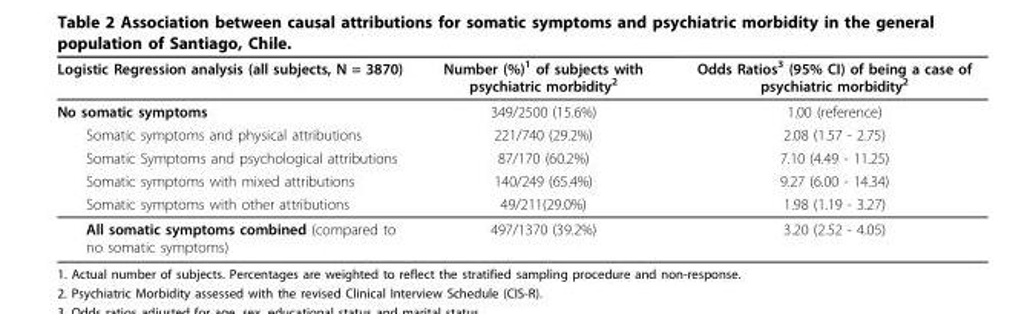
<table><thead><tr><td>Logistic Regression analysis (all subjects, N = 3870)</td><td>Number (%)<sup>1</sup> of subjects with psychiatric morbidity<sup>2</sup></td><td>Odds Ratios<sup>3</sup> (95% CI) of being a case of psychiatric morbidity<sup>2</sup></td></tr></thead><tbody><tr><td>No somatic symptoms</td><td>349/2500 (15.6%)</td><td>1.00 (reference)</td></tr><tr><td>Somatic symptoms and physical attributions</td><td>221/740 (29.2%)</td><td>2.08 (1.57 - 2.75)</td></tr><tr><td>Somatic Symptoms and psychological attributions</td><td>87/170 (60.2%)</td><td>7.10 (4.49 - 11.25)</td></tr><tr><td>Somatic symptoms with mixed attributions</td><td>140/249 (65.4%)</td><td>9.27 (6.00 - 14.34)</td></tr><tr><td>Somatic symptoms with other attributions</td><td>49/211(29.0%)</td><td>1.98 (1.19 - 3.27)</td></tr><tr><td>All somatic symptoms combined (compared to no somatic symptoms)</td><td>497/1370 (39.2%)</td><td>3.20 (2.52 - 4.05)</td></tr></tbody></table>